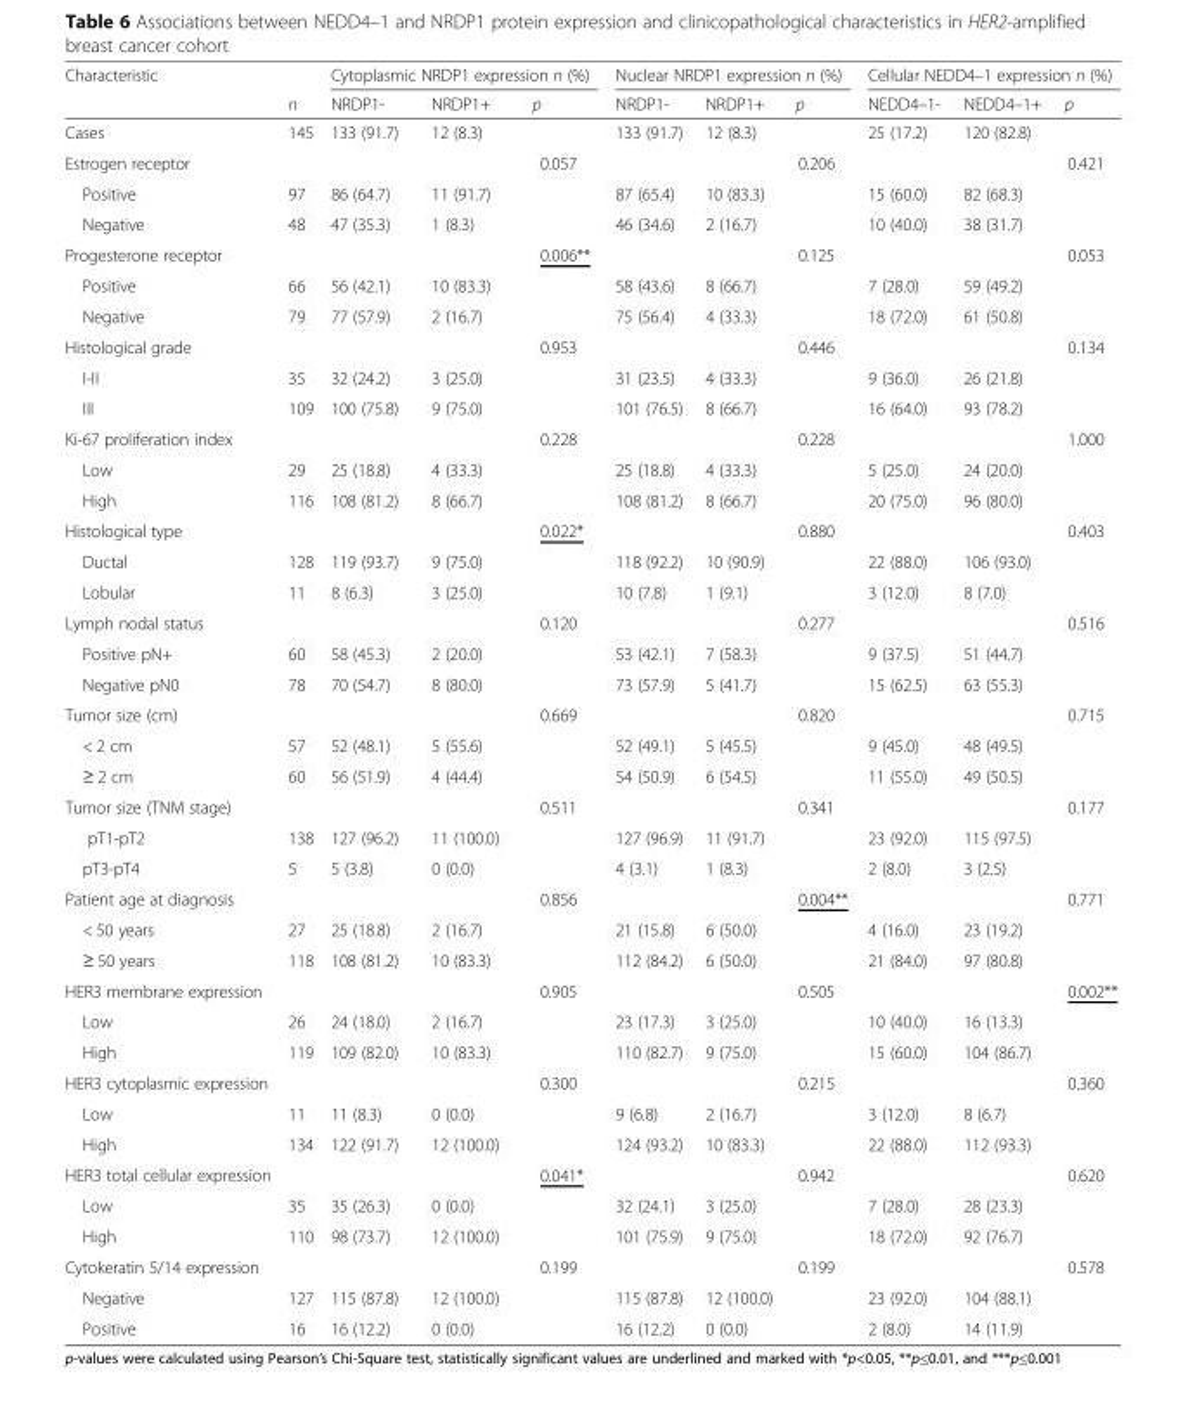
<table><thead><tr><td rowspan="2">Characteristic</td><td rowspan="2">n</td><td colspan="3">Cytoplasmic NRDP1 expression n (%)</td><td colspan="3">Nuclear NRDP1 expression n (%)</td><td colspan="3">Cellular NEDD4–1 expression n (%)</td></tr><tr><td>NRDP1-</td><td>NRDP1+</td><td>p</td><td>NRDP1-</td><td>NRDP1+</td><td>p</td><td>NEDD4–1-</td><td>NEDD4–1+</td><td>p</td></tr></thead><tbody><tr><td>Cases</td><td>145</td><td>133 (91.7)</td><td>12 (8.3)</td><td></td><td>133 (91.7)</td><td>12 (8.3)</td><td></td><td>25 (17.2)</td><td>120 (82.8)</td><td></td></tr><tr><td>Estrogen receptor</td><td></td><td></td><td></td><td>0.057</td><td></td><td></td><td>0.206</td><td></td><td></td><td>0.421</td></tr><tr><td>Positive</td><td>97</td><td>86 (64.7)</td><td>11 (91.7)</td><td></td><td>87 (65.4)</td><td>10 (83.3)</td><td></td><td>15 (60.0)</td><td>82 (68.3)</td><td></td></tr><tr><td>Negative</td><td>48</td><td>47 (35.3)</td><td>1 (8.3)</td><td></td><td>46 (34.6)</td><td>2 (16.7)</td><td></td><td>10 (40.0)</td><td>38 (31.7)</td><td></td></tr><tr><td>Progesterone receptor</td><td></td><td></td><td></td><td>0.006**</td><td></td><td></td><td>0.125</td><td></td><td></td><td>0.053</td></tr><tr><td>Positive</td><td>66</td><td>56 (42.1)</td><td>10 (83.3)</td><td></td><td>58 (43.6)</td><td>8 (66.7)</td><td></td><td>7 (28.0)</td><td>59 (49.2)</td><td></td></tr><tr><td>Negative</td><td>79</td><td>77 (57.9)</td><td>2 (16.7)</td><td></td><td>75 (56.4)</td><td>4 (33.3)</td><td></td><td>18 (72.0)</td><td>61 (50.8)</td><td></td></tr><tr><td>Histological grade</td><td></td><td></td><td></td><td>0.953</td><td></td><td></td><td>0.446</td><td></td><td></td><td>0.134</td></tr><tr><td>I-II</td><td>35</td><td>32 (24.2)</td><td>3 (25.0)</td><td></td><td>31 (23.5)</td><td>4 (33.3)</td><td></td><td>9 (36.0)</td><td>26 (21.8)</td><td></td></tr><tr><td>III</td><td>109</td><td>100 (75.8)</td><td>9 (75.0)</td><td></td><td>101 (76.5)</td><td>8 (66.7)</td><td></td><td>16 (64.0)</td><td>93 (78.2)</td><td></td></tr><tr><td>Ki-67 proliferation index</td><td></td><td></td><td></td><td>0.228</td><td></td><td></td><td>0.228</td><td></td><td></td><td>1.000</td></tr><tr><td>Low</td><td>29</td><td>25 (18.8)</td><td>4 (33.3)</td><td></td><td>25 (18.8)</td><td>4 (33.3)</td><td></td><td>5 (25.0)</td><td>24 (20.0)</td><td></td></tr><tr><td>High</td><td>116</td><td>108 (81.2)</td><td>8 (66.7)</td><td></td><td>108 (81.2)</td><td>8 (66.7)</td><td></td><td>20 (75.0)</td><td>96 (80.0)</td><td></td></tr><tr><td>Histological type</td><td></td><td></td><td></td><td>0.022*</td><td></td><td></td><td>0.880</td><td></td><td></td><td>0.403</td></tr><tr><td>Ductal</td><td>128</td><td>119 (93.7)</td><td>9 (75.0)</td><td></td><td>118 (92.2)</td><td>10 (90.9)</td><td></td><td>22 (88.0)</td><td>106 (93.0)</td><td></td></tr><tr><td>Lobular</td><td>11</td><td>8 (6.3)</td><td>3 (25.0)</td><td></td><td>10 (7.8)</td><td>1 (9.1)</td><td></td><td>3 (12.0)</td><td>8 (7.0)</td><td></td></tr><tr><td>Lymph nodal status</td><td></td><td></td><td></td><td>0.120</td><td></td><td></td><td>0.277</td><td></td><td></td><td>0.516</td></tr><tr><td>Positive pN+</td><td>60</td><td>58 (45.3)</td><td>2 (20.0)</td><td></td><td>53 (42.1)</td><td>7 (58.3)</td><td></td><td>9 (37.5)</td><td>51 (44.7)</td><td></td></tr><tr><td>Negative pN0</td><td>78</td><td>70 (54.7)</td><td>8 (80.0)</td><td></td><td>73 (57.9)</td><td>5 (41.7)</td><td></td><td>15 (62.5)</td><td>63 (55.3)</td><td></td></tr><tr><td>Tumor size (cm)</td><td></td><td></td><td></td><td>0.669</td><td></td><td></td><td>0.820</td><td></td><td></td><td>0.715</td></tr><tr><td>&lt; 2 cm</td><td>57</td><td>52 (48.1)</td><td>5 (55.6)</td><td></td><td>52 (49.1)</td><td>5 (45.5)</td><td></td><td>9 (45.0)</td><td>48 (49.5)</td><td></td></tr><tr><td>≥ 2 cm</td><td>60</td><td>56 (51.9)</td><td>4 (44.4)</td><td></td><td>54 (50.9)</td><td>6 (54.5)</td><td></td><td>11 (55.0)</td><td>49 (50.5)</td><td></td></tr><tr><td>Tumor size (TNM stage)</td><td></td><td></td><td></td><td>0.511</td><td></td><td></td><td>0.341</td><td></td><td></td><td>0.177</td></tr><tr><td>pT1-pT2</td><td>138</td><td>127 (96.2)</td><td>11 (100.0)</td><td></td><td>127 (96.9)</td><td>11 (91.7)</td><td></td><td>23 (92.0)</td><td>115 (97.5)</td><td></td></tr><tr><td>pT3-pT4</td><td>5</td><td>5 (3.8)</td><td>0 (0.0)</td><td></td><td>4 (3.1)</td><td>1 (8.3)</td><td></td><td>2 (8.0)</td><td>3 (2.5)</td><td></td></tr><tr><td>Patient age at diagnosis</td><td></td><td></td><td></td><td>0.856</td><td></td><td></td><td>0.004**</td><td></td><td></td><td>0.771</td></tr><tr><td>&lt; 50 years</td><td>27</td><td>25 (18.8)</td><td>2 (16.7)</td><td></td><td>21 (15.8)</td><td>6 (50.0)</td><td></td><td>4 (16.0)</td><td>23 (19.2)</td><td></td></tr><tr><td>≥ 50 years</td><td>118</td><td>108 (81.2)</td><td>10 (83.3)</td><td></td><td>112 (84.2)</td><td>6 (50.0)</td><td></td><td>21 (84.0)</td><td>97 (80.8)</td><td></td></tr><tr><td>HER3 membrane expression</td><td></td><td></td><td></td><td>0.905</td><td></td><td></td><td>0.505</td><td></td><td></td><td>0.002**</td></tr><tr><td>Low</td><td>26</td><td>24 (18.0)</td><td>2 (16.7)</td><td></td><td>23 (17.3)</td><td>3 (25.0)</td><td></td><td>10 (40.0)</td><td>16 (13.3)</td><td></td></tr><tr><td>High</td><td>119</td><td>109 (82.0)</td><td>10 (83.3)</td><td></td><td>110 (82.7)</td><td>9 (75.0)</td><td></td><td>15 (60.0)</td><td>104 (86.7)</td><td></td></tr><tr><td>HER3 cytoplasmic expression</td><td></td><td></td><td></td><td>0.300</td><td></td><td></td><td>0.215</td><td></td><td></td><td>0.360</td></tr><tr><td>Low</td><td>11</td><td>11 (8.3)</td><td>0 (0.0)</td><td></td><td>9 (6.8)</td><td>2 (16.7)</td><td></td><td>3 (12.0)</td><td>8 (6.7)</td><td></td></tr><tr><td>High</td><td>134</td><td>122 (91.7)</td><td>12 (100.0)</td><td></td><td>124 (93.2)</td><td>10 (83.3)</td><td></td><td>22 (88.0)</td><td>112 (93.3)</td><td></td></tr><tr><td>HER3 total cellular expression</td><td></td><td></td><td></td><td>0.041*</td><td></td><td></td><td>0.942</td><td></td><td></td><td>0.620</td></tr><tr><td>Low</td><td>35</td><td>35 (26.3)</td><td>0 (0.0)</td><td></td><td>32 (24.1)</td><td>3 (25.0)</td><td></td><td>7 (28.0)</td><td>28 (23.3)</td><td></td></tr><tr><td>High</td><td>110</td><td>98 (73.7)</td><td>12 (100.0)</td><td></td><td>101 (75.9)</td><td>9 (75.0)</td><td></td><td>18 (72.0)</td><td>92 (76.7)</td><td></td></tr><tr><td>Cytokeratin 5/14 expression</td><td></td><td></td><td></td><td>0.199</td><td></td><td></td><td>0.199</td><td></td><td></td><td>0.578</td></tr><tr><td>Negative</td><td>127</td><td>115 (87.8)</td><td>12 (100.0)</td><td></td><td>115 (87.8)</td><td>12 (100.0)</td><td></td><td>23 (92.0)</td><td>104 (88.1)</td><td></td></tr><tr><td>Positive</td><td>16</td><td>16 (12.2)</td><td>0 (0.0)</td><td></td><td>16 (12.2)</td><td>0 (0.0)</td><td></td><td>2 (8.0)</td><td>14 (11.9)</td><td></td></tr></tbody></table>